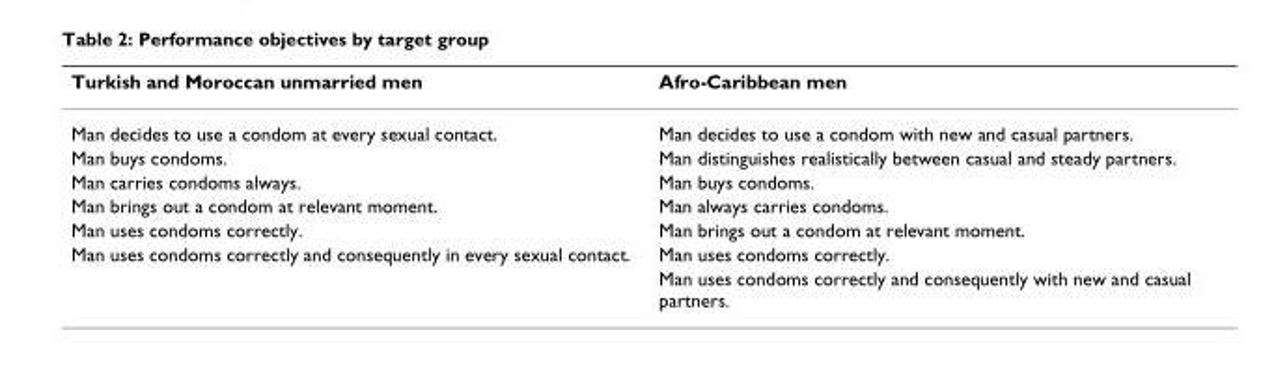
<table><thead><tr><td>Turkish and Moroccan unmarried men</td><td>Afro-Caribbean men</td></tr></thead><tbody><tr><td>Man decides to use a condom at every sexual contact.</td><td>Man decides to use a condom with new and casual partners.</td></tr><tr><td>Man buys condoms.</td><td>Man distinguishes realistically between casual and steady partners.</td></tr><tr><td>Man carries condoms always.</td><td>Man buys condoms.</td></tr><tr><td>Man brings out a condom at relevant moment.</td><td>Man always carries condoms.</td></tr><tr><td>Man uses condoms correctly.</td><td>Man brings out a condom at relevant moment.</td></tr><tr><td rowspan="2">Man uses condoms correctly and consequently in every sexual contact.</td><td>Man uses condoms correctly.</td></tr><tr><td>Man uses condoms correctly and consequently with new and casual partners.</td></tr></tbody></table>